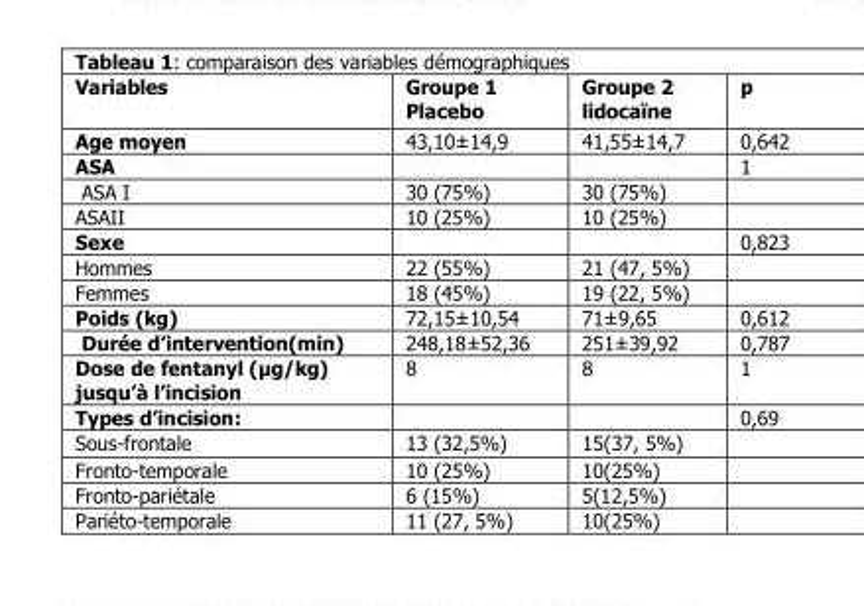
<table><thead><tr><td>Variables</td><td>Groupe 1 Placebo</td><td>Groupe 2 lidocaïne</td><td>p</td></tr></thead><tbody><tr><td>Age moyen</td><td>43,10±14,9</td><td>41,55±14,7</td><td>0,642</td></tr><tr><td>ASA</td><td></td><td></td><td>1</td></tr><tr><td>ASA I</td><td>30 (75%)</td><td>30 (75%)</td><td></td></tr><tr><td>ASAII</td><td>10 (25%)</td><td>10 (25%)</td><td></td></tr><tr><td>Sexe</td><td></td><td></td><td>0,823</td></tr><tr><td>Hommes</td><td>22 (55%)</td><td>21 (47, 5%)</td><td></td></tr><tr><td>Femmes</td><td>18 (45%)</td><td>19 (22, 5%)</td><td></td></tr><tr><td>Poids (kg)</td><td>72,15±10,54</td><td>71±9,65</td><td>0,612</td></tr><tr><td>Durée d’intervention(min)</td><td>248,18±52,36</td><td>251±39,92</td><td>0,787</td></tr><tr><td>Dose de fentanyl (µg/kg) jusqu’à l’incision</td><td>8</td><td>8</td><td>1</td></tr><tr><td>Types d’incision:</td><td></td><td></td><td>0,69</td></tr><tr><td>Sous-frontale</td><td>13 (32,5%)</td><td>15(37, 5%)</td><td></td></tr><tr><td>Fronto-temporale</td><td>10 (25%)</td><td>10(25%)</td><td></td></tr><tr><td>Fronto-pariétale</td><td>6 (15%)</td><td>5(12,5%)</td><td></td></tr><tr><td>Pariéto-temporale</td><td>11 (27, 5%)</td><td>10(25%)</td><td></td></tr></tbody></table>